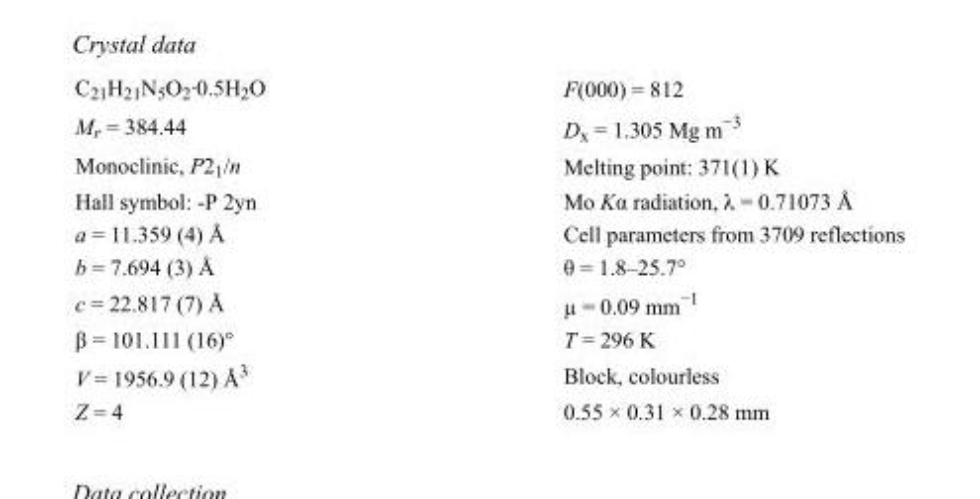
<table><tbody><tr><td>C<sub>21</sub>H<sub>21</sub>N<sub>5</sub>O<sub>2</sub>·0.5H<sub>2</sub>O</td><td>F(000) = 812</td></tr><tr><td>M<sub>r</sub> = 384.44</td><td>D<sub>x</sub> = 1.305 Mg m<sup>−3</sup></td></tr><tr><td>Monoclinic, P2<sub>1</sub>/n</td><td>Melting point: 371(1) K</td></tr><tr><td>Hall symbol: -P 2yn</td><td>Mo Kα radiation, λ = 0.71073 Å</td></tr><tr><td>a = 11.359 (4) Å</td><td>Cell parameters from 3709 reflections</td></tr><tr><td>b = 7.694 (3) Å</td><td>θ = 1.8–25.7°</td></tr><tr><td>c = 22.817 (7) Å</td><td>µ = 0.09 mm<sup>−1</sup></td></tr><tr><td>β = 101.111 (16)°</td><td>T = 296 K</td></tr><tr><td>V = 1956.9 (12) Å<sup>3</sup></td><td>Block, colourless</td></tr><tr><td>Z = 4</td><td>0.55 × 0.31 × 0.28 mm</td></tr></tbody></table>